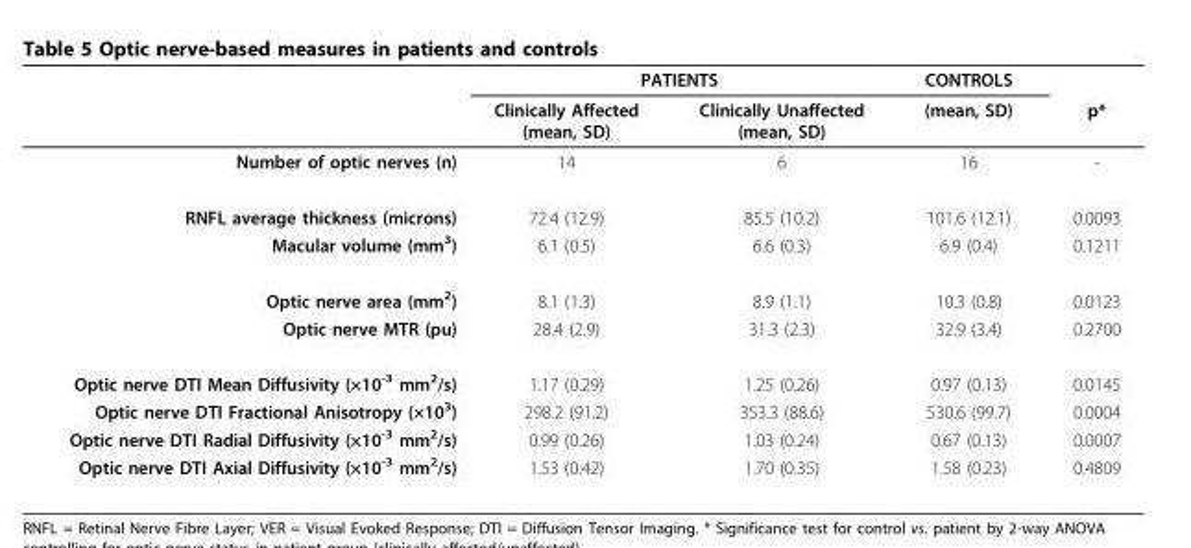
<table><thead><tr><td rowspan="2"></td><td colspan="2">PATIENTS</td><td rowspan="2">CONTROLS (mean, SD)</td><td rowspan="2">p*</td></tr><tr><td>Clinically Affected (mean, SD)</td><td>Clinically Unaffected (mean, SD)</td></tr></thead><tbody><tr><td>Number of optic nerves (n)</td><td>14</td><td>6</td><td>16</td><td>-</td></tr><tr><td>RNFL average thickness (microns)</td><td>72.4 (12.9)</td><td>85.5 (10.2)</td><td>101.6 (12.1)</td><td>0.0093</td></tr><tr><td>Macular volume (mm<sup>3</sup>)</td><td>6.1 (0.5)</td><td>6.6 (0.3)</td><td>6.9 (0.4)</td><td>0.1211</td></tr><tr><td>Optic nerve area (mm<sup>2</sup>)</td><td>8.1 (1.3)</td><td>8.9 (1.1)</td><td>10.3 (0.8)</td><td>0.0123</td></tr><tr><td>Optic nerve MTR (pu)</td><td>28.4 (2.9)</td><td>31.3 (2.3)</td><td>32.9 (3.4)</td><td>0.2700</td></tr><tr><td>Optic nerve DTI Mean Diffusivity (×10<sup>-3</sup> mm<sup>2</sup>/s)</td><td>1.17 (0.29)</td><td>1.25 (0.26)</td><td>0.97 (0.13)</td><td>0.0145</td></tr><tr><td>Optic nerve DTI Fractional Anisotropy (×10<sup>3</sup>)</td><td>298.2 (91.2)</td><td>353.3 (88.6)</td><td>530.6 (99.7)</td><td>0.0004</td></tr><tr><td>Optic nerve DTI Radial Diffusivity (×10<sup>-3</sup> mm<sup>2</sup>/s)</td><td>0.99 (0.26)</td><td>1.03 (0.24)</td><td>0.67 (0.13)</td><td>0.0007</td></tr><tr><td>Optic nerve DTI Axial Diffusivity (×10<sup>-3</sup> mm<sup>2</sup>/s)</td><td>1.53 (0.42)</td><td>1.70 (0.35)</td><td>1.58 (0.23)</td><td>0.4809</td></tr></tbody></table>